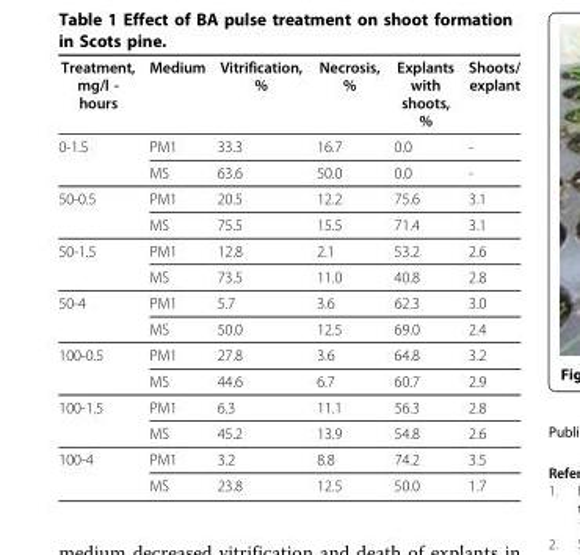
<table><thead><tr><td>Treatment, mg/l - hours</td><td>Medium</td><td>Vitrification, %</td><td>Necrosis, %</td><td>Explants with shoots, %</td><td>Shoots/ explant</td></tr></thead><tbody><tr><td rowspan="2">0-1.5</td><td>PM1</td><td>33.3</td><td>16.7</td><td>0.0</td><td>-</td></tr><tr><td>MS</td><td>63.6</td><td>50.0</td><td>0.0</td><td>-</td></tr><tr><td rowspan="2">50-0.5</td><td>PM1</td><td>20.5</td><td>12.2</td><td>75.6</td><td>3.1</td></tr><tr><td>MS</td><td>75.5</td><td>15.5</td><td>71.4</td><td>3.1</td></tr><tr><td rowspan="2">50-1.5</td><td>PM1</td><td>12.8</td><td>2.1</td><td>53.2</td><td>2.6</td></tr><tr><td>MS</td><td>73.5</td><td>11.0</td><td>40.8</td><td>2.8</td></tr><tr><td rowspan="2">50-4</td><td>PM1</td><td>5.7</td><td>3.6</td><td>62.3</td><td>3.0</td></tr><tr><td>MS</td><td>50.0</td><td>12.5</td><td>69.0</td><td>2.4</td></tr><tr><td rowspan="2">100-0.5</td><td>PM1</td><td>27.8</td><td>3.6</td><td>64.8</td><td>3.2</td></tr><tr><td>MS</td><td>44.6</td><td>6.7</td><td>60.7</td><td>2.9</td></tr><tr><td rowspan="2">100-1.5</td><td>PM1</td><td>6.3</td><td>11.1</td><td>56.3</td><td>2.8</td></tr><tr><td>MS</td><td>45.2</td><td>13.9</td><td>54.8</td><td>2.6</td></tr><tr><td rowspan="2">100-4</td><td>PM1</td><td>3.2</td><td>8.8</td><td>74.2</td><td>3.5</td></tr><tr><td>MS</td><td>23.8</td><td>12.5</td><td>50.0</td><td>1.7</td></tr></tbody></table>